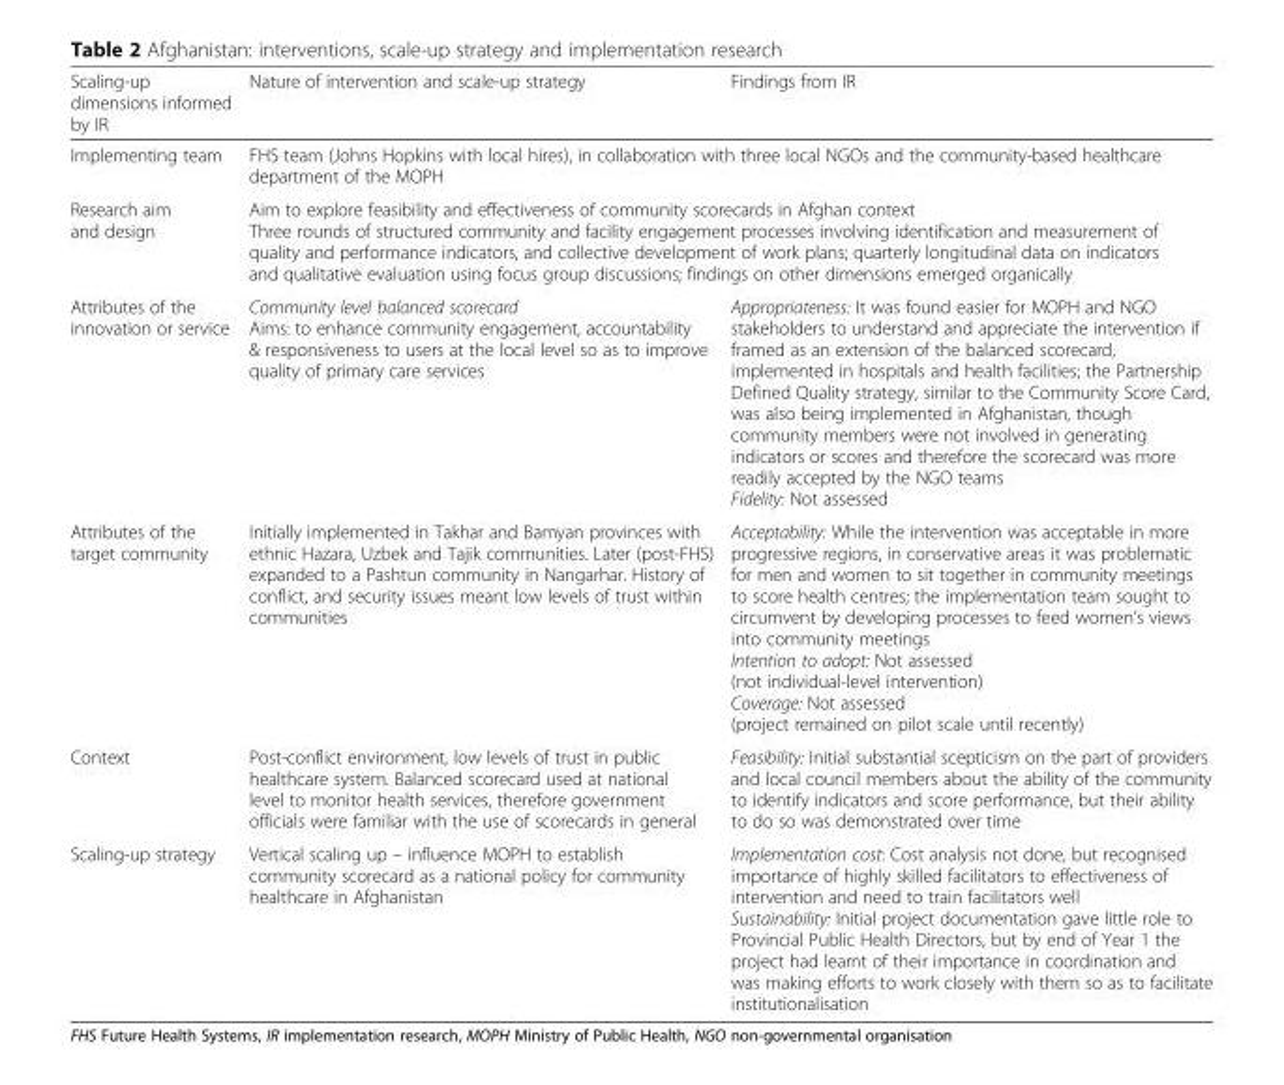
<table><thead><tr><td>Scaling-up dimensions informed by IR</td><td>Nature of intervention and scale-up strategy</td><td>Findings from IR</td></tr></thead><tbody><tr><td>Implementing team</td><td colspan="2">FHS team (Johns Hopkins with local hires), in collaboration with three local NGOs and the community-based healthcare department of the MOPH</td></tr><tr><td>Research aim and design</td><td colspan="2">Aim to explore feasibility and effectiveness of community scorecards in Afghan context Three rounds of structured community and facility engagement processes involving identification and measurement of quality and performance indicators, and collective development of work plans; quarterly longitudinal data on indicators and qualitative evaluation using focus group discussions; findings on other dimensions emerged organically</td></tr><tr><td>Attributes of the innovation or service</td><td>Community level balanced scorecard Aims: to enhance community engagement, accountability &amp; responsiveness to users at the local level so as to improve quality of primary care services</td><td>Appropriateness: It was found easier for MOPH and NGO stakeholders to understand and appreciate the intervention if framed as an extension of the balanced scorecard, implemented in hospitals and health facilities; the Partnership Defined Quality strategy, similar to the Community Score Card, was also being implemented in Afghanistan, though community members were not involved in generating indicators or scores and therefore the scorecard was more readily accepted by the NGO teams Fidelity: Not assessed</td></tr><tr><td>Attributes of the target community</td><td>Initially implemented in Takhar and Bamyan provinces with ethnic Hazara, Uzbek and Tajik communities. Later (post-FHS) expanded to a Pashtun community in Nangarhar. History of conflict, and security issues meant low levels of trust within communities</td><td>Acceptability: While the intervention was acceptable in more progressive regions, in conservative areas it was problematic for men and women to sit together in community meetings to score health centres; the implementation team sought to circumvent by developing processes to feed women’s views into community meetings Intention to adopt: Not assessed (not individual-level intervention) Coverage: Not assessed (project remained on pilot scale until recently)</td></tr><tr><td>Context</td><td>Post-conflict environment, low levels of trust in public healthcare system. Balanced scorecard used at national level to monitor health services, therefore government officials were familiar with the use of scorecards in general</td><td>Feasibility: Initial substantial scepticism on the part of providers and local council members about the ability of the community to identify indicators and score performance, but their ability to do so was demonstrated over time</td></tr><tr><td>Scaling-up strategy</td><td>Vertical scaling up – influence MOPH to establish community scorecard as a national policy for community healthcare in Afghanistan</td><td>Implementation cost: Cost analysis not done, but recognised importance of highly skilled facilitators to effectiveness of intervention and need to train facilitators well Sustainability: Initial project documentation gave little role to Provincial Public Health Directors, but by end of Year 1 the project had learnt of their importance in coordination and was making efforts to work closely with them so as to facilitate institutionalisation</td></tr></tbody></table>